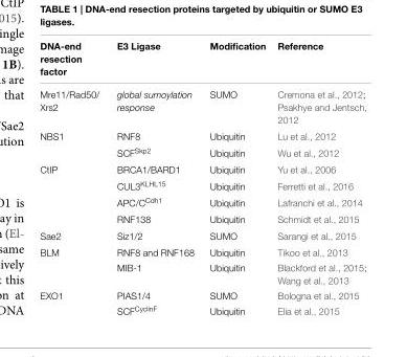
<table><thead><tr><td>DNA-end resection factor</td><td>E3 Ligase</td><td>Modification</td><td>Reference</td></tr></thead><tbody><tr><td>Mre11/Rad50/ Xrs2</td><td>global sumoylation response</td><td>SUMO</td><td>Cremona et al., 2012; Psakhye and Jentsch, 2012</td></tr><tr><td rowspan="2">NBS1</td><td>RNF8</td><td>Ubiquitin</td><td>Lu et al., 2012</td></tr><tr><td>SCF<sup>Skp2</sup></td><td>Ubiquitin</td><td>Wu et al., 2012</td></tr><tr><td rowspan="4">CtIP</td><td>BRCA1/BARD1</td><td>Ubiquitin</td><td>Yu et al., 2006</td></tr><tr><td>CUL3<sup>KLHL15</sup></td><td>Ubiquitin</td><td>Ferretti et al., 2016</td></tr><tr><td>APC/C<sup>Cdh1</sup></td><td>Ubiquitin</td><td>Lafranchi et al., 2014</td></tr><tr><td>RNF138</td><td>Ubiquitin</td><td>Schmidt et al., 2015</td></tr><tr><td>Sae2</td><td>Siz1/2</td><td>SUMO</td><td>Sarangi et al., 2015</td></tr><tr><td rowspan="2">BLM</td><td>RNF8 and RNF168</td><td>Ubiquitin</td><td>Tikoo et al., 2013</td></tr><tr><td>MIB-1</td><td>Ubiquitin</td><td>Blackford et al., 2015; Wang et al., 2013</td></tr><tr><td rowspan="2">EXO1</td><td>PIAS1/4</td><td>SUMO</td><td>Bologna et al., 2015</td></tr><tr><td>SCF<sup>CyclinF</sup></td><td>Ubiquitin</td><td>Elia et al., 2015</td></tr></tbody></table>